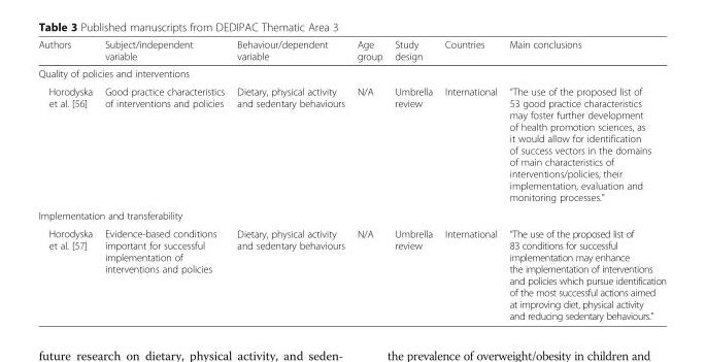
<table><thead><tr><td>Authors</td><td>Subject/independent variable</td><td>Behaviour/dependent variable</td><td>Age group</td><td>Study design</td><td>Countries</td><td>Main conclusions</td></tr></thead><tbody><tr><td colspan="7">Quality of policies and interventions</td></tr><tr><td>Horodyska et al. [56]</td><td>Good practice characteristics of interventions and policies</td><td>Dietary, physical activity and sedentary behaviours</td><td>N/A</td><td>Umbrella review</td><td>International</td><td>“The use of the proposed list of 53 good practice characteristics may foster further development of health promotion sciences, as it would allow for identification of success vectors in the domains of main characteristics of interventions/policies, their implementation, evaluation and monitoring processes.”</td></tr><tr><td colspan="7">Implementation and transferability</td></tr><tr><td>Horodyska et al. [57]</td><td>Evidence-based conditions important for successful implementation of interventions and policies</td><td>Dietary, physical activity and sedentary behaviours</td><td>N/A</td><td>Umbrella review</td><td>International</td><td>“The use of the proposed list of 83 conditions for successful implementation may enhance the implementation of interventions and policies which pursue identification of the most successful actions aimed at improving diet, physical activity and reducing sedentary behaviours.”</td></tr></tbody></table>